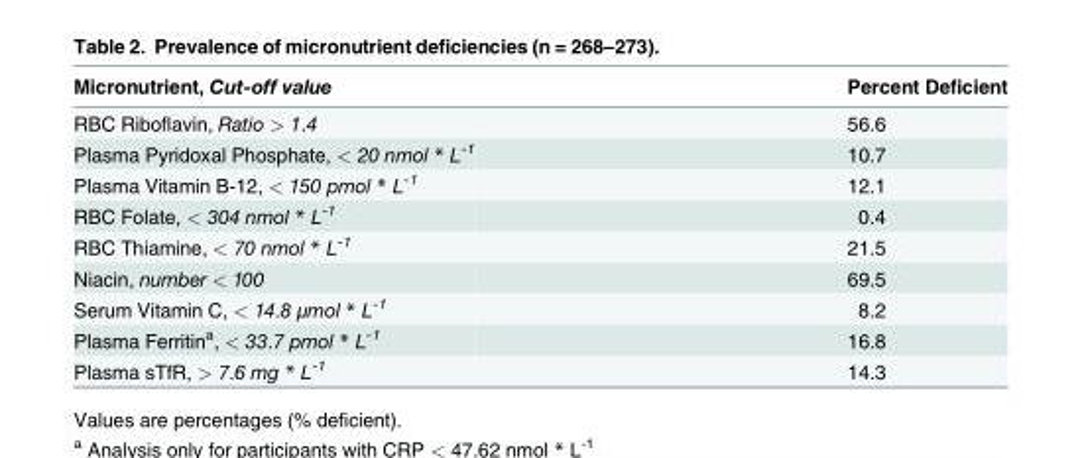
<table><thead><tr><td>Micronutrient, Cut-off value</td><td>Percent Deficient</td></tr></thead><tbody><tr><td>RBC Riboflavin, Ratio &gt; 1.4</td><td>56.6</td></tr><tr><td>Plasma Pyridoxal Phosphate, &lt; 20 nmol * L<sup>-1</sup></td><td>10.7</td></tr><tr><td>Plasma Vitamin B-12, &lt; 150 pmol * L<sup>-1</sup></td><td>12.1</td></tr><tr><td>RBC Folate, &lt; 304 nmol * L<sup>-1</sup></td><td>0.4</td></tr><tr><td>RBC Thiamine, &lt; 70 nmol * L<sup>-1</sup></td><td>21.5</td></tr><tr><td>Niacin, number &lt; 100</td><td>69.5</td></tr><tr><td>Serum Vitamin C, &lt; 14.8 μmol * L<sup>-1</sup></td><td>8.2</td></tr><tr><td>Plasma Ferritin<sup>a</sup>, &lt; 33.7 pmol * L<sup>-1</sup></td><td>16.8</td></tr><tr><td>Plasma sTfR, &gt; 7.6 mg * L<sup>-1</sup></td><td>14.3</td></tr></tbody></table>